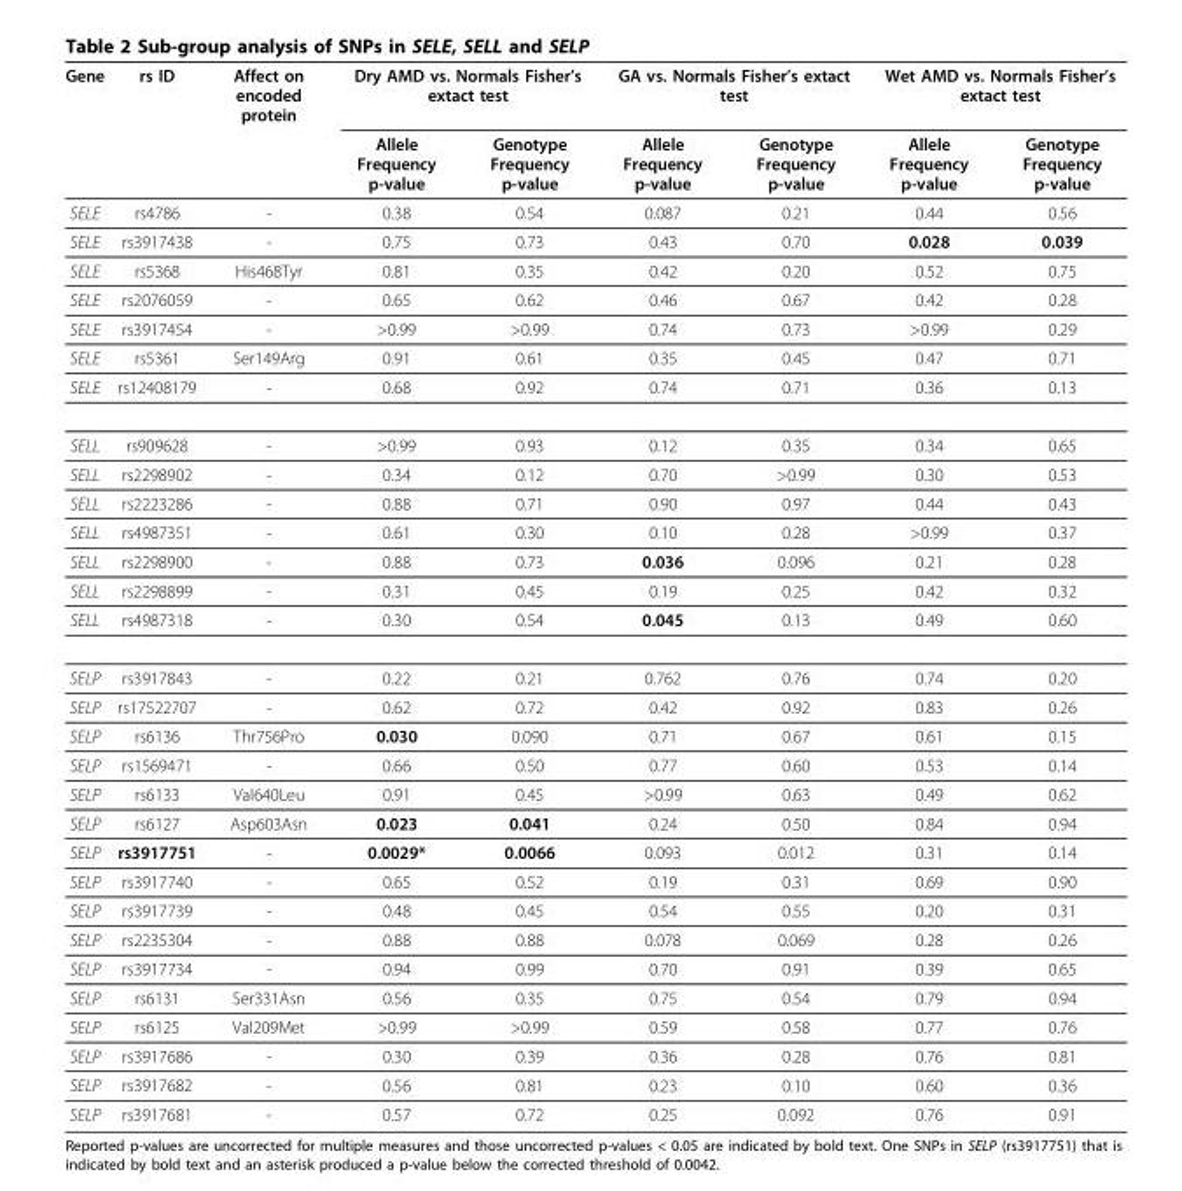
<table><thead><tr><td rowspan="2">Gene</td><td rowspan="2">rs ID</td><td rowspan="2">Affect on encoded protein</td><td colspan="2">Dry AMD vs. Normals Fisher’s extact test</td><td colspan="2">GA vs. Normals Fisher’s extact test</td><td colspan="2">Wet AMD vs. Normals Fisher’s extact test</td></tr><tr><td>Allele Frequency p-value</td><td>Genotype Frequency p-value</td><td>Allele Frequency p-value</td><td>Genotype Frequency p-value</td><td>Allele Frequency p-value</td><td>Genotype Frequency p-value</td></tr></thead><tbody><tr><td>SELE</td><td>rs4786</td><td>-</td><td>0.38</td><td>0.54</td><td>0.087</td><td>0.21</td><td>0.44</td><td>0.56</td></tr><tr><td>SELE</td><td>rs3917438</td><td>-</td><td>0.75</td><td>0.73</td><td>0.43</td><td>0.70</td><td>0.028</td><td>0.039</td></tr><tr><td>SELE</td><td>rs5368</td><td>His468Tyr</td><td>0.81</td><td>0.35</td><td>0.42</td><td>0.20</td><td>0.52</td><td>0.75</td></tr><tr><td>SELE</td><td>rs2076059</td><td>-</td><td>0.65</td><td>0.62</td><td>0.46</td><td>0.67</td><td>0.42</td><td>0.28</td></tr><tr><td>SELE</td><td>rs3917454</td><td>-</td><td>&gt;0.99</td><td>&gt;0.99</td><td>0.74</td><td>0.73</td><td>&gt;0.99</td><td>0.29</td></tr><tr><td>SELE</td><td>rs5361</td><td>Ser149Arg</td><td>0.91</td><td>0.61</td><td>0.35</td><td>0.45</td><td>0.47</td><td>0.71</td></tr><tr><td>SELE</td><td>rs12408179</td><td>-</td><td>0.68</td><td>0.92</td><td>0.74</td><td>0.71</td><td>0.36</td><td>0.13</td></tr><tr><td>SELL</td><td>rs909628</td><td>-</td><td>&gt;0.99</td><td>0.93</td><td>0.12</td><td>0.35</td><td>0.34</td><td>0.65</td></tr><tr><td>SELL</td><td>rs2298902</td><td>-</td><td>0.34</td><td>0.12</td><td>0.70</td><td>&gt;0.99</td><td>0.30</td><td>0.53</td></tr><tr><td>SELL</td><td>rs2223286</td><td>-</td><td>0.88</td><td>0.71</td><td>0.90</td><td>0.97</td><td>0.44</td><td>0.43</td></tr><tr><td>SELL</td><td>rs4987351</td><td>-</td><td>0.61</td><td>0.30</td><td>0.10</td><td>0.28</td><td>&gt;0.99</td><td>0.37</td></tr><tr><td>SELL</td><td>rs2298900</td><td>-</td><td>0.88</td><td>0.73</td><td>0.036</td><td>0.096</td><td>0.21</td><td>0.28</td></tr><tr><td>SELL</td><td>rs2298899</td><td>-</td><td>0.31</td><td>0.45</td><td>0.19</td><td>0.25</td><td>0.42</td><td>0.32</td></tr><tr><td>SELL</td><td>rs4987318</td><td>-</td><td>0.30</td><td>0.54</td><td>0.045</td><td>0.13</td><td>0.49</td><td>0.60</td></tr><tr><td>SELP</td><td>rs3917843</td><td>-</td><td>0.22</td><td>0.21</td><td>0.762</td><td>0.76</td><td>0.74</td><td>0.20</td></tr><tr><td>SELP</td><td>rs17522707</td><td>-</td><td>0.62</td><td>0.72</td><td>0.42</td><td>0.92</td><td>0.83</td><td>0.26</td></tr><tr><td>SELP</td><td>rs6136</td><td>Thr756Pro</td><td>0.030</td><td>0.090</td><td>0.71</td><td>0.67</td><td>0.61</td><td>0.15</td></tr><tr><td>SELP</td><td>rs1569471</td><td>-</td><td>0.66</td><td>0.50</td><td>0.77</td><td>0.60</td><td>0.53</td><td>0.14</td></tr><tr><td>SELP</td><td>rs6133</td><td>Val640Leu</td><td>0.91</td><td>0.45</td><td>&gt;0.99</td><td>0.63</td><td>0.49</td><td>0.62</td></tr><tr><td>SELP</td><td>rs6127</td><td>Asp603Asn</td><td>0.023</td><td>0.041</td><td>0.24</td><td>0.50</td><td>0.84</td><td>0.94</td></tr><tr><td>SELP</td><td>rs3917751</td><td>-</td><td>0.0029*</td><td>0.0066</td><td>0.093</td><td>0.012</td><td>0.31</td><td>0.14</td></tr><tr><td>SELP</td><td>rs3917740</td><td>-</td><td>0.65</td><td>0.52</td><td>0.19</td><td>0.31</td><td>0.69</td><td>0.90</td></tr><tr><td>SELP</td><td>rs3917739</td><td>-</td><td>0.48</td><td>0.45</td><td>0.54</td><td>0.55</td><td>0.20</td><td>0.31</td></tr><tr><td>SELP</td><td>rs2235304</td><td>-</td><td>0.88</td><td>0.88</td><td>0.078</td><td>0.069</td><td>0.28</td><td>0.26</td></tr><tr><td>SELP</td><td>rs3917734</td><td>-</td><td>0.94</td><td>0.99</td><td>0.70</td><td>0.91</td><td>0.39</td><td>0.65</td></tr><tr><td>SELP</td><td>rs6131</td><td>Ser331Asn</td><td>0.56</td><td>0.35</td><td>0.75</td><td>0.54</td><td>0.79</td><td>0.94</td></tr><tr><td>SELP</td><td>rs6125</td><td>Val209Met</td><td>&gt;0.99</td><td>&gt;0.99</td><td>0.59</td><td>0.58</td><td>0.77</td><td>0.76</td></tr><tr><td>SELP</td><td>rs3917686</td><td>-</td><td>0.30</td><td>0.39</td><td>0.36</td><td>0.28</td><td>0.76</td><td>0.81</td></tr><tr><td>SELP</td><td>rs3917682</td><td>-</td><td>0.56</td><td>0.81</td><td>0.23</td><td>0.10</td><td>0.60</td><td>0.36</td></tr><tr><td>SELP</td><td>rs3917681</td><td>-</td><td>0.57</td><td>0.72</td><td>0.25</td><td>0.092</td><td>0.76</td><td>0.91</td></tr></tbody></table>